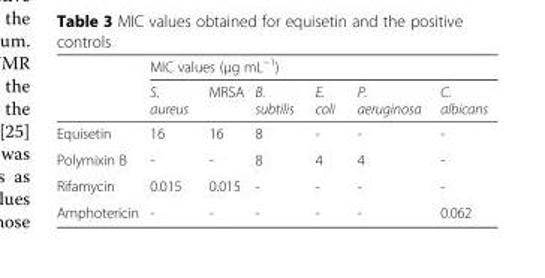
<table><thead><tr><td rowspan="2"></td><td colspan="6">MIC values (μg mL<sup>−1</sup>)</td></tr><tr><td>S. aureus</td><td>MRSA</td><td>B. subtilis</td><td>E. coli</td><td>P. aeruginosa</td><td>C. albicans</td></tr></thead><tbody><tr><td>Equisetin</td><td>16</td><td>16</td><td>8</td><td>-</td><td>-</td><td>-</td></tr><tr><td>Polymixin B</td><td>-</td><td>-</td><td>8</td><td>4</td><td>4</td><td>-</td></tr><tr><td>Rifamycin</td><td>0.015</td><td>0.015</td><td>-</td><td>-</td><td>-</td><td>-</td></tr><tr><td>Amphotericin</td><td>-</td><td>-</td><td>-</td><td>-</td><td>-</td><td>0.062</td></tr></tbody></table>